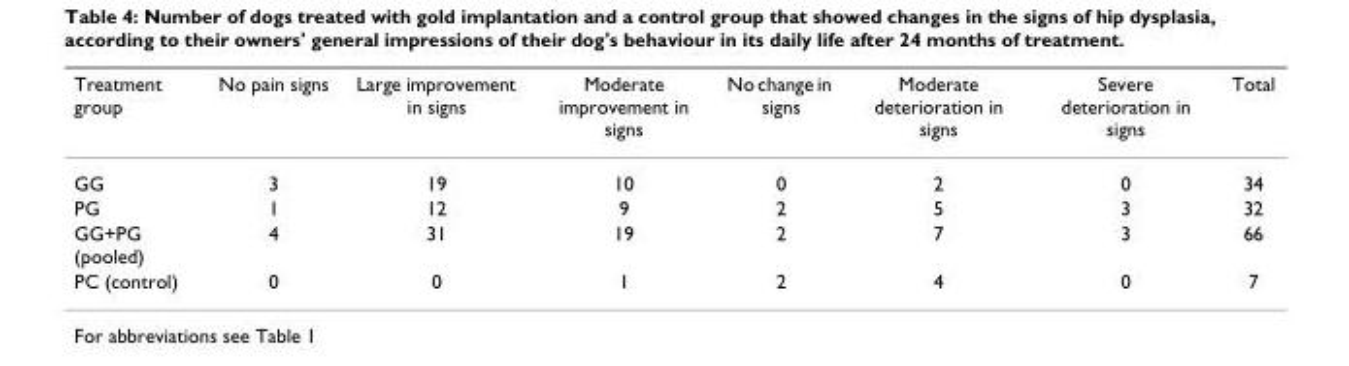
<table><thead><tr><td>Treatment group</td><td>No pain signs</td><td>Large improvement in signs</td><td>Moderate improvement in signs</td><td>No change in signs</td><td>Moderate deterioration in signs</td><td>Severe deterioration in signs</td><td>Total</td></tr></thead><tbody><tr><td>GG</td><td>3</td><td>19</td><td>10</td><td>0</td><td>2</td><td>0</td><td>34</td></tr><tr><td>PG</td><td>1</td><td>12</td><td>9</td><td>2</td><td>5</td><td>3</td><td>32</td></tr><tr><td>GG+PG (pooled)</td><td>4</td><td>31</td><td>19</td><td>2</td><td>7</td><td>3</td><td>66</td></tr><tr><td>PC (control)</td><td>0</td><td>0</td><td>1</td><td>2</td><td>4</td><td>0</td><td>7</td></tr></tbody></table>